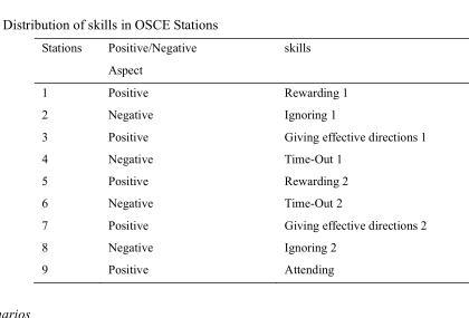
<table><thead><tr><td>Stations</td><td>Positive/Negative Aspect</td><td>skills</td></tr></thead><tbody><tr><td>1</td><td>Positive</td><td>Rewarding 1</td></tr><tr><td>2</td><td>Negative</td><td>Ignoring 1</td></tr><tr><td>3</td><td>Positive</td><td>Giving effective directions 1</td></tr><tr><td>4</td><td>Negative</td><td>Time-Out 1</td></tr><tr><td>5</td><td>Positive</td><td>Rewarding 2</td></tr><tr><td>6</td><td>Negative</td><td>Time-Out 2</td></tr><tr><td>7</td><td>Positive</td><td>Giving effective directions 2</td></tr><tr><td>8</td><td>Negative</td><td>Ignoring 2</td></tr><tr><td>9</td><td>Positive</td><td>Attending</td></tr></tbody></table>